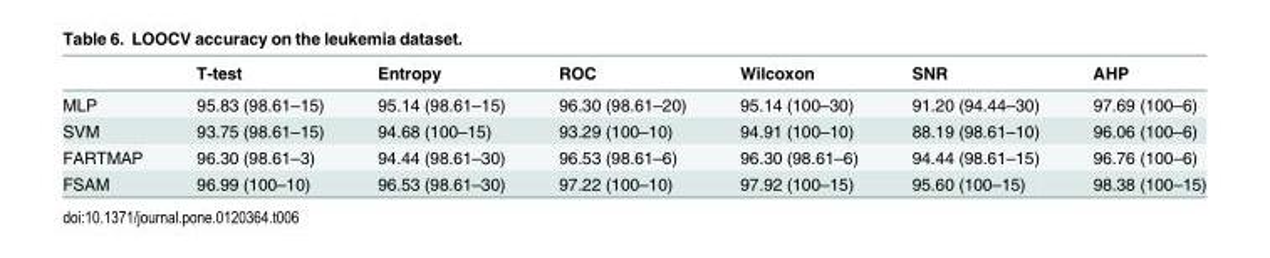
<table><thead><tr><td></td><td>T-test</td><td>Entropy</td><td>ROC</td><td>Wilcoxon</td><td>SNR</td><td>AHP</td></tr></thead><tbody><tr><td>MLP</td><td>95.83 (98.61–15)</td><td>95.14 (98.61–15)</td><td>96.30 (98.61–20)</td><td>95.14 (100–30)</td><td>91.20 (94.44–30)</td><td>97.69 (100–6)</td></tr><tr><td>SVM</td><td>93.75 (98.61–15)</td><td>94.68 (100–15)</td><td>93.29 (100–10)</td><td>94.91 (100–10)</td><td>88.19 (98.61–10)</td><td>96.06 (100–6)</td></tr><tr><td>FARTMAP</td><td>96.30 (98.61–3)</td><td>94.44 (98.61–30)</td><td>96.53 (98.61–6)</td><td>96.30 (98.61–6)</td><td>94.44 (98.61–15)</td><td>96.76 (100–6)</td></tr><tr><td>FSAM</td><td>96.99 (100–10)</td><td>96.53 (98.61–30)</td><td>97.22 (100–10)</td><td>97.92 (100–15)</td><td>95.60 (100–15)</td><td>98.38 (100–15)</td></tr></tbody></table>